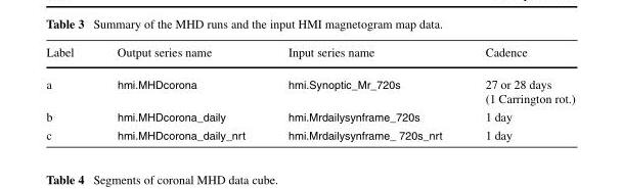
<table><thead><tr><td>Label</td><td>Output series name</td><td>Input series name</td><td>Cadence</td></tr></thead><tbody><tr><td>a</td><td>hmi.MHDcorona</td><td>hmi.Synoptic_Mr_720s</td><td>27 or 28 days (1 Carrington rot.)</td></tr><tr><td>b</td><td>hmi.MHDcorona_daily</td><td>hmi.Mrdailysynframe_720s</td><td>1 day</td></tr><tr><td>c</td><td>hmi.MHDcorona_daily_nrt</td><td>hmi.Mrdailysynframe_ 720s_nrt</td><td>1 day</td></tr></tbody></table>